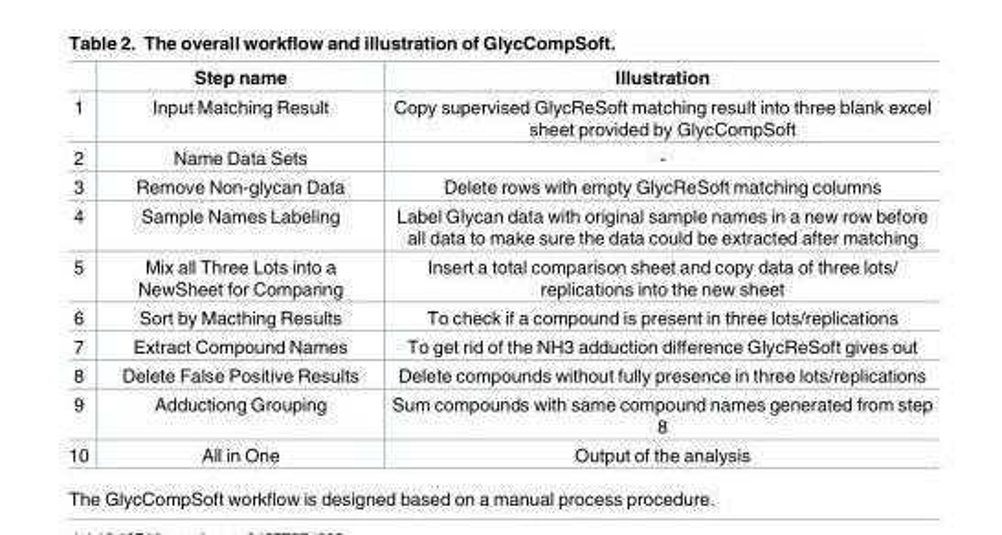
<table><thead><tr><td></td><td>Step name</td><td>Illustration</td></tr></thead><tbody><tr><td>1</td><td>Input Matching Result</td><td>Copy supervised GlycReSoft matching result into three blank excel sheet provided by GlycCompSoft</td></tr><tr><td>2</td><td>Name Data Sets</td><td>-</td></tr><tr><td>3</td><td>Remove Non-glycan Data</td><td>Delete rows with empty GlycReSoft matching columns</td></tr><tr><td>4</td><td>Sample Names Labeling</td><td>Label Glycan data with original sample names in a new row before all data to make sure the data could be extracted after matching</td></tr><tr><td>5</td><td>Mix all Three Lots into a NewSheet for Comparing</td><td>Insert a total comparison sheet and copy data of three lots/ replications into the new sheet</td></tr><tr><td>6</td><td>Sort by Macthing Results</td><td>To check if a compound is present in three lots/replications</td></tr><tr><td>7</td><td>Extract Compound Names</td><td>To get rid of the NH3 adduction difference GlycReSoft gives out</td></tr><tr><td>8</td><td>Delete False Positive Results</td><td>Delete compounds without fully presence in three lots/replications</td></tr><tr><td>9</td><td>Adductiong Grouping</td><td>Sum compounds with same compound names generated from step 8</td></tr><tr><td>10</td><td>All in One</td><td>Output of the analysis</td></tr></tbody></table>